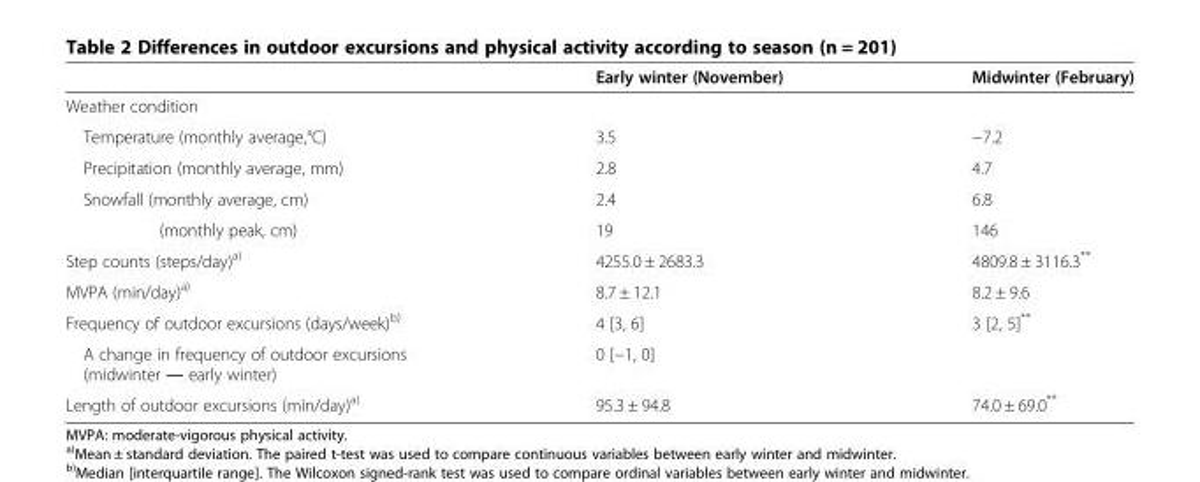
<table><thead><tr><td></td><td>Early winter (November)</td><td>Midwinter (February)</td></tr></thead><tbody><tr><td colspan="3">Weather condition</td></tr><tr><td>Temperature (monthly average,°C)</td><td>3.5</td><td>−7.2</td></tr><tr><td>Precipitation (monthly average, mm)</td><td>2.8</td><td>4.7</td></tr><tr><td>Snowfall (monthly average, cm)</td><td>2.4</td><td>6.8</td></tr><tr><td>(monthly peak, cm)</td><td>19</td><td>146</td></tr><tr><td>Step counts (steps/day)<sup>a)</sup></td><td>4255.0 ± 2683.3</td><td>4809.8 ± 3116.3**</td></tr><tr><td>MVPA (min/day)<sup>a)</sup></td><td>8.7 ± 12.1</td><td>8.2 ± 9.6</td></tr><tr><td>Frequency of outdoor excursions (days/week)<sup>b)</sup></td><td>4 [3, 6]</td><td>3 [2, 5]**</td></tr><tr><td>A change in frequency of outdoor excursions (midwinter ― early winter)</td><td colspan="2">0 [−1, 0]</td></tr><tr><td>Length of outdoor excursions (min/day)<sup>a)</sup></td><td>95.3 ± 94.8</td><td>74.0 ± 69.0**</td></tr></tbody></table>